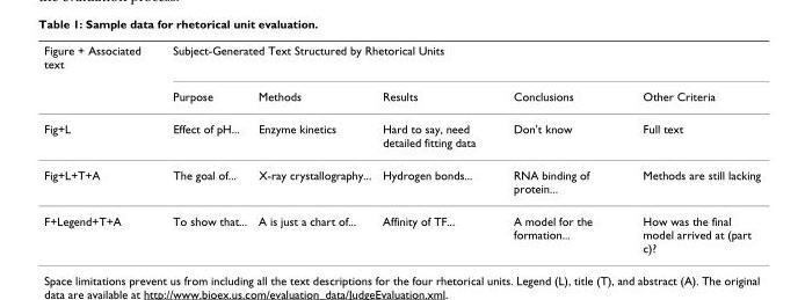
<table><thead><tr><td rowspan="2">Figure + Associated text</td><td colspan="5">Subject-Generated Text Structured by Rhetorical Units</td></tr><tr><td>Purpose</td><td>Methods</td><td>Results</td><td>Conclusions</td><td>Other Criteria</td></tr></thead><tbody><tr><td>Fig+L</td><td>Effect of pH...</td><td>Enzyme kinetics</td><td>Hard to say, need detailed fitting data</td><td>Don&#x27;t know</td><td>Full text</td></tr><tr><td>Fig+L+T+A</td><td>The goal of...</td><td>X-ray crystallography...</td><td>Hydrogen bonds...</td><td>RNA binding of protein...</td><td>Methods are still lacking</td></tr><tr><td>F+Legend+T+A</td><td>To show that...</td><td>A is just a chart of...</td><td>Affinity of TF...</td><td>A model for the formation...</td><td>How was the final model arrived at (part c)?</td></tr></tbody></table>